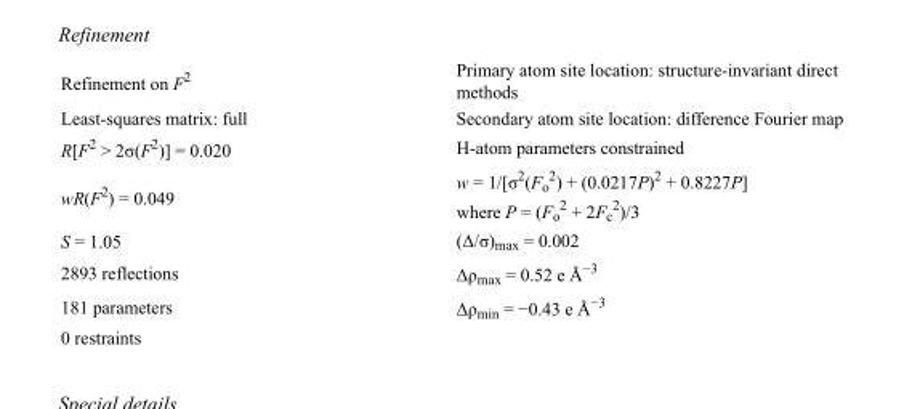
<table><tbody><tr><td>Refinement on F<sup>2</sup></td><td>Primary atom site location: structure-invariant direct methods</td></tr><tr><td>Least-squares matrix: full</td><td>Secondary atom site location: difference Fourier map</td></tr><tr><td>R[F<sup>2</sup> &gt; 2σ(F<sup>2</sup>)] = 0.020</td><td>H-atom parameters constrained</td></tr><tr><td>wR(F<sup>2</sup>) = 0.049</td><td>w = 1/[σ<sup>2</sup>(F<sub>o</sub> <sup>2</sup>) + (0.0217P)<sup>2</sup> + 0.8227P] where P = (F<sub>o</sub> <sup>2</sup> + 2F<sub>c</sub> <sup>2</sup>)/3</td></tr><tr><td>S = 1.05</td><td>(Δ/σ)<sub>max</sub> = 0.002</td></tr><tr><td>2893 reflections</td><td>Δρ<sub>max</sub> = 0.52 e Å<sup>−3</sup></td></tr><tr><td>181 parameters</td><td>Δρ<sub>min</sub> = −0.43 e Å<sup>−3</sup></td></tr><tr><td>0 restraints</td><td></td></tr></tbody></table>